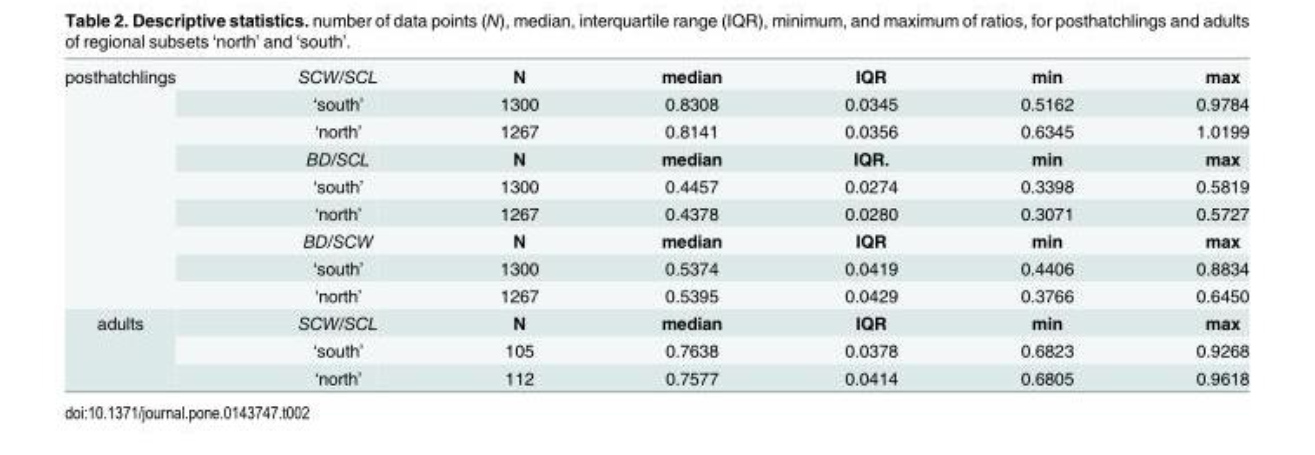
<table><tbody><tr><td rowspan="9">posthatchlings</td><td>SCW/SCL</td><td>N</td><td>median</td><td>IQR</td><td>min</td><td>max</td></tr><tr><td>‘south’</td><td>1300</td><td>0.8308</td><td>0.0345</td><td>0.5162</td><td>0.9784</td></tr><tr><td>‘north’</td><td>1267</td><td>0.8141</td><td>0.0356</td><td>0.6345</td><td>1.0199</td></tr><tr><td>BD/SCL</td><td>N</td><td>median</td><td>IQR.</td><td>min</td><td>max</td></tr><tr><td>‘south’</td><td>1300</td><td>0.4457</td><td>0.0274</td><td>0.3398</td><td>0.5819</td></tr><tr><td>‘north’</td><td>1267</td><td>0.4378</td><td>0.0280</td><td>0.3071</td><td>0.5727</td></tr><tr><td>BD/SCW</td><td>N</td><td>median</td><td>IQR</td><td>min</td><td>max</td></tr><tr><td>‘south’</td><td>1300</td><td>0.5374</td><td>0.0419</td><td>0.4406</td><td>0.8834</td></tr><tr><td>‘north’</td><td>1267</td><td>0.5395</td><td>0.0429</td><td>0.3766</td><td>0.6450</td></tr><tr><td rowspan="3">adults</td><td>SCW/SCL</td><td>N</td><td>median</td><td>IQR</td><td>min</td><td>max</td></tr><tr><td>‘south’</td><td>105</td><td>0.7638</td><td>0.0378</td><td>0.6823</td><td>0.9268</td></tr><tr><td>‘north’</td><td>112</td><td>0.7577</td><td>0.0414</td><td>0.6805</td><td>0.9618</td></tr></tbody></table>